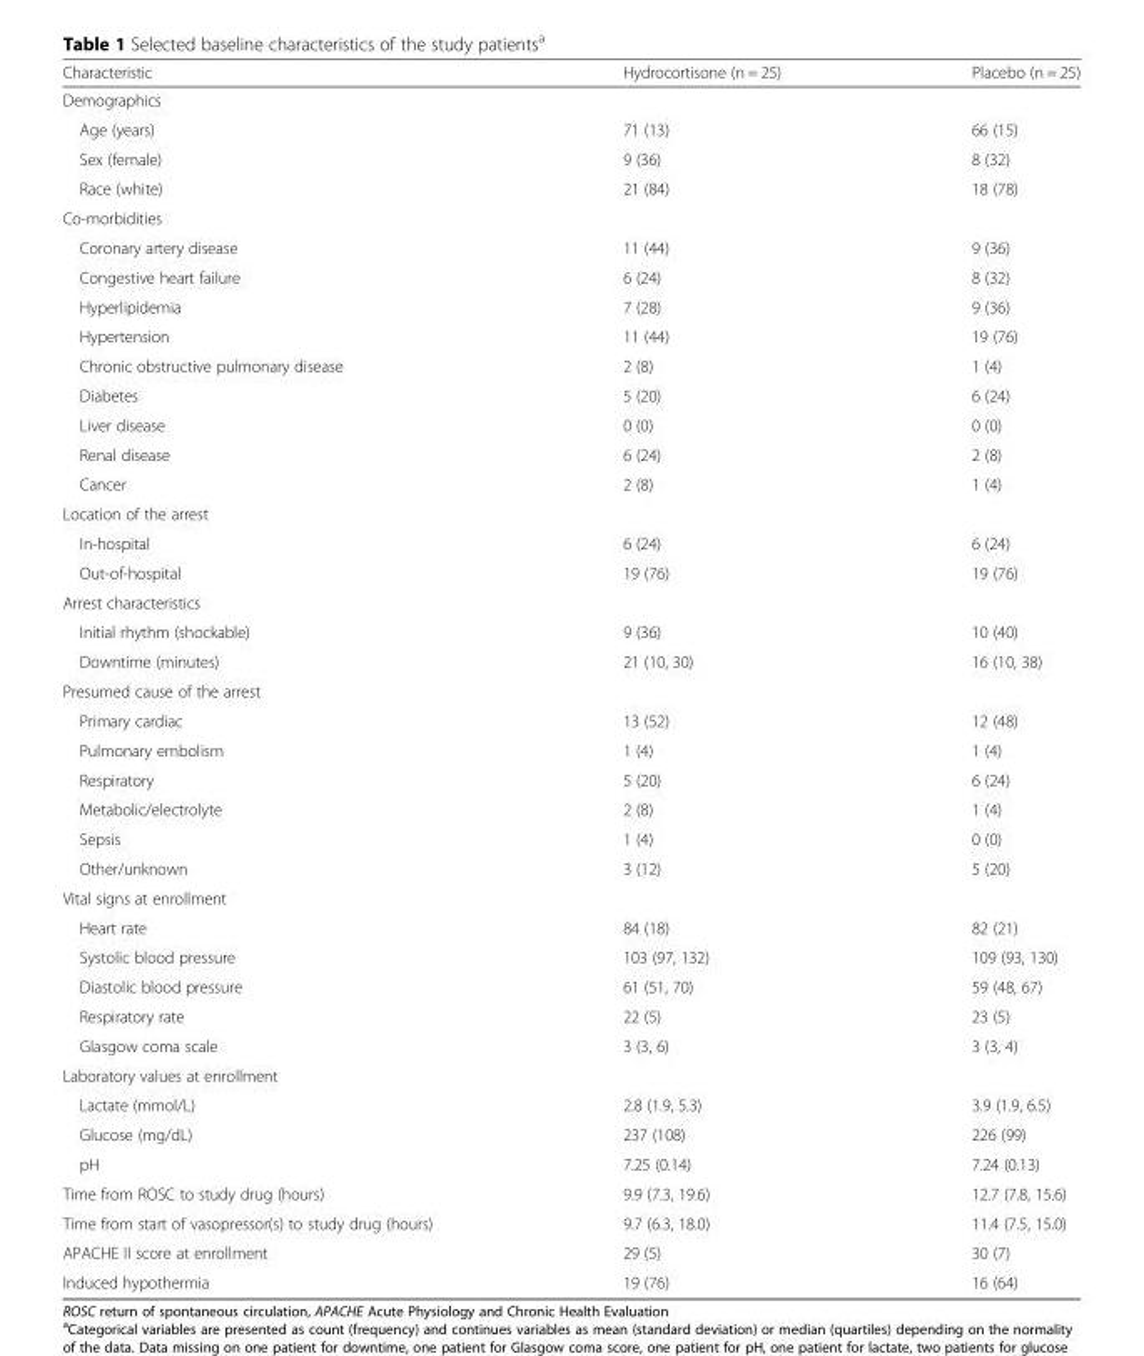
<table><thead><tr><td>Characteristic</td><td>Hydrocortisone (n = 25)</td><td>Placebo (n = 25)</td></tr></thead><tbody><tr><td colspan="3">Demographics</td></tr><tr><td>Age (years)</td><td>71 (13)</td><td>66 (15)</td></tr><tr><td>Sex (female)</td><td>9 (36)</td><td>8 (32)</td></tr><tr><td>Race (white)</td><td>21 (84)</td><td>18 (78)</td></tr><tr><td colspan="3">Co-morbidities</td></tr><tr><td>Coronary artery disease</td><td>11 (44)</td><td>9 (36)</td></tr><tr><td>Congestive heart failure</td><td>6 (24)</td><td>8 (32)</td></tr><tr><td>Hyperlipidemia</td><td>7 (28)</td><td>9 (36)</td></tr><tr><td>Hypertension</td><td>11 (44)</td><td>19 (76)</td></tr><tr><td>Chronic obstructive pulmonary disease</td><td>2 (8)</td><td>1 (4)</td></tr><tr><td>Diabetes</td><td>5 (20)</td><td>6 (24)</td></tr><tr><td>Liver disease</td><td>0 (0)</td><td>0 (0)</td></tr><tr><td>Renal disease</td><td>6 (24)</td><td>2 (8)</td></tr><tr><td>Cancer</td><td>2 (8)</td><td>1 (4)</td></tr><tr><td colspan="3">Location of the arrest</td></tr><tr><td>In-hospital</td><td>6 (24)</td><td>6 (24)</td></tr><tr><td>Out-of-hospital</td><td>19 (76)</td><td>19 (76)</td></tr><tr><td colspan="3">Arrest characteristics</td></tr><tr><td>Initial rhythm (shockable)</td><td>9 (36)</td><td>10 (40)</td></tr><tr><td>Downtime (minutes)</td><td>21 (10, 30)</td><td>16 (10, 38)</td></tr><tr><td colspan="3">Presumed cause of the arrest</td></tr><tr><td>Primary cardiac</td><td>13 (52)</td><td>12 (48)</td></tr><tr><td>Pulmonary embolism</td><td>1 (4)</td><td>1 (4)</td></tr><tr><td>Respiratory</td><td>5 (20)</td><td>6 (24)</td></tr><tr><td>Metabolic/electrolyte</td><td>2 (8)</td><td>1 (4)</td></tr><tr><td>Sepsis</td><td>1 (4)</td><td>0 (0)</td></tr><tr><td>Other/unknown</td><td>3 (12)</td><td>5 (20)</td></tr><tr><td colspan="3">Vital signs at enrollment</td></tr><tr><td>Heart rate</td><td>84 (18)</td><td>82 (21)</td></tr><tr><td>Systolic blood pressure</td><td>103 (97, 132)</td><td>109 (93, 130)</td></tr><tr><td>Diastolic blood pressure</td><td>61 (51, 70)</td><td>59 (48, 67)</td></tr><tr><td>Respiratory rate</td><td>22 (5)</td><td>23 (5)</td></tr><tr><td>Glasgow coma scale</td><td>3 (3, 6)</td><td>3 (3, 4)</td></tr><tr><td colspan="3">Laboratory values at enrollment</td></tr><tr><td>Lactate (mmol/L)</td><td>2.8 (1.9, 5.3)</td><td>3.9 (1.9, 6.5)</td></tr><tr><td>Glucose (mg/dL)</td><td>237 (108)</td><td>226 (99)</td></tr><tr><td>pH</td><td>7.25 (0.14)</td><td>7.24 (0.13)</td></tr><tr><td>Time from ROSC to study drug (hours)</td><td>9.9 (7.3, 19.6)</td><td>12.7 (7.8, 15.6)</td></tr><tr><td>Time from start of vasopressor(s) to study drug (hours)</td><td>9.7 (6.3, 18.0)</td><td>11.4 (7.5, 15.0)</td></tr><tr><td>APACHE II score at enrollment</td><td>29 (5)</td><td>30 (7)</td></tr><tr><td>Induced hypothermia</td><td>19 (76)</td><td>16 (64)</td></tr></tbody></table>